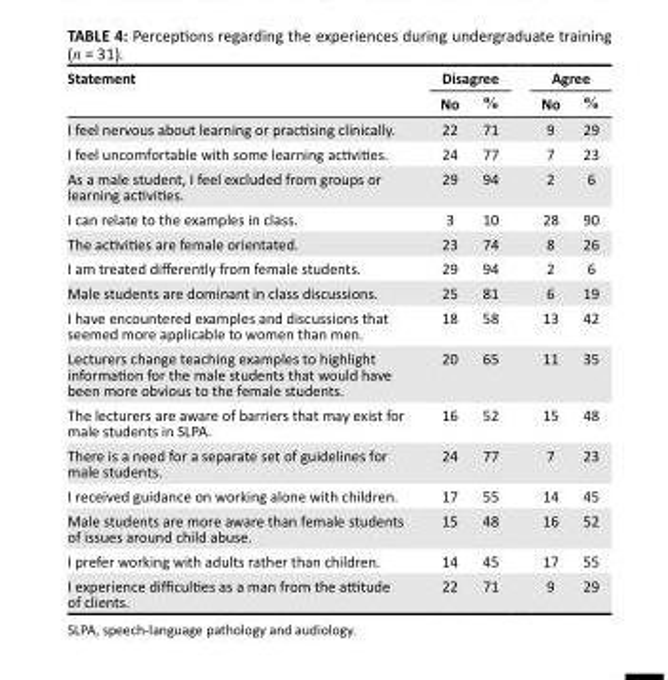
<table><thead><tr><td rowspan="2">Statement</td><td colspan="2">Disagree</td><td colspan="2">Agree</td></tr><tr><td>No</td><td>%</td><td>No</td><td>%</td></tr></thead><tbody><tr><td>I feel nervous about learning or practising clinically.</td><td>22</td><td>71</td><td>9</td><td>29</td></tr><tr><td>I feel uncomfortable with some learning activities.</td><td>24</td><td>77</td><td>7</td><td>23</td></tr><tr><td>As a male student, I feel excluded from groups or learning activities.</td><td>29</td><td>94</td><td>2</td><td>6</td></tr><tr><td>I can relate to the examples in class.</td><td>3</td><td>10</td><td>28</td><td>90</td></tr><tr><td>The activities are female orientated.</td><td>23</td><td>74</td><td>8</td><td>26</td></tr><tr><td>I am treated differently from female students.</td><td>29</td><td>94</td><td>2</td><td>6</td></tr><tr><td>Male students are dominant in class discussions.</td><td>25</td><td>81</td><td>6</td><td>19</td></tr><tr><td>I have encountered examples and discussions that seemed more applicable to women than men.</td><td>18</td><td>58</td><td>13</td><td>42</td></tr><tr><td>Lecturers change teaching examples to highlight information for the male students that would have been more obvious to the female students.</td><td>20</td><td>65</td><td>11</td><td>35</td></tr><tr><td>The lecturers are aware of barriers that may exist for male students in SLPA.</td><td>16</td><td>52</td><td>15</td><td>48</td></tr><tr><td>There is a need for a separate set of guidelines for male students.</td><td>24</td><td>77</td><td>7</td><td>23</td></tr><tr><td>I received guidance on working alone with children.</td><td>17</td><td>55</td><td>14</td><td>45</td></tr><tr><td>Male students are more aware than female students of issues around child abuse.</td><td>15</td><td>48</td><td>16</td><td>52</td></tr><tr><td>I prefer working with adults rather than children.</td><td>14</td><td>45</td><td>17</td><td>55</td></tr><tr><td>I experience difficulties as a man from the attitude of clients.</td><td>22</td><td>71</td><td>9</td><td>29</td></tr></tbody></table>